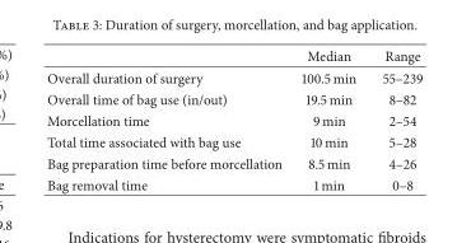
<table><thead><tr><td></td><td>Median</td><td>Range</td></tr></thead><tbody><tr><td>Overall duration of surgery</td><td>100.5 min</td><td>55–239</td></tr><tr><td>Overall time of bag use (in/out)</td><td>19.5 min</td><td>8–82</td></tr><tr><td>Morcellation time</td><td>9 min</td><td>2–54</td></tr><tr><td>Total time associated with bag use</td><td>10 min</td><td>5–28</td></tr><tr><td>Bag preparation time before morcellation</td><td>8.5 min</td><td>4–26</td></tr><tr><td>Bag removal time</td><td>1 min</td><td>0–8</td></tr></tbody></table>